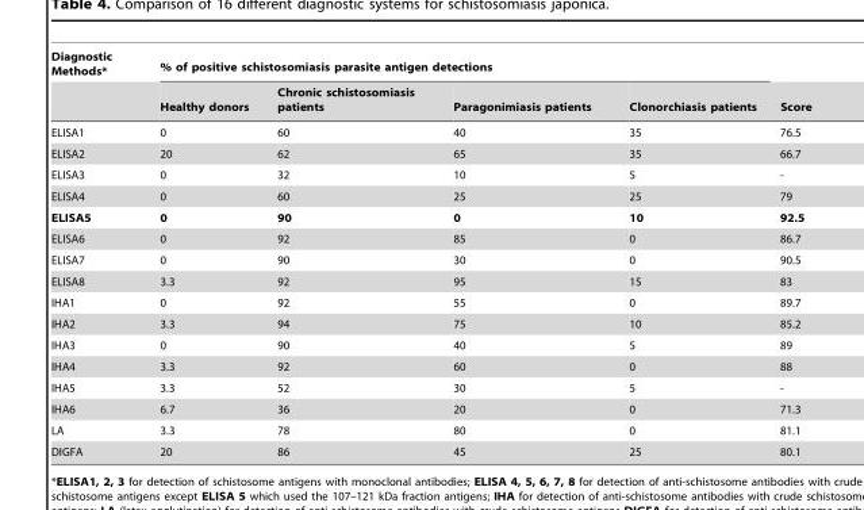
<table><thead><tr><td rowspan="2">Diagnostic Methods*</td><td colspan="4">% of positive schistosomiasis parasite antigen detections</td><td rowspan="2">Score</td></tr><tr><td>Healthy donors</td><td>Chronic schistosomiasis patients</td><td>Paragonimiasis patients</td><td>Clonorchiasis patients</td></tr></thead><tbody><tr><td>ELISA1</td><td>0</td><td>60</td><td>40</td><td>35</td><td>76.5</td></tr><tr><td>ELISA2</td><td>20</td><td>62</td><td>65</td><td>35</td><td>66.7</td></tr><tr><td>ELISA3</td><td>0</td><td>32</td><td>10</td><td>5</td><td>-</td></tr><tr><td>ELISA4</td><td>0</td><td>60</td><td>25</td><td>25</td><td>79</td></tr><tr><td>ELISA5</td><td>0</td><td>90</td><td>0</td><td>10</td><td>92.5</td></tr><tr><td>ELISA6</td><td>0</td><td>92</td><td>85</td><td>0</td><td>86.7</td></tr><tr><td>ELISA7</td><td>0</td><td>90</td><td>30</td><td>0</td><td>90.5</td></tr><tr><td>ELISA8</td><td>3.3</td><td>92</td><td>95</td><td>15</td><td>83</td></tr><tr><td>IHA1</td><td>0</td><td>92</td><td>55</td><td>0</td><td>89.7</td></tr><tr><td>IHA2</td><td>3.3</td><td>94</td><td>75</td><td>10</td><td>85.2</td></tr><tr><td>IHA3</td><td>0</td><td>90</td><td>40</td><td>5</td><td>89</td></tr><tr><td>IHA4</td><td>3.3</td><td>92</td><td>60</td><td>0</td><td>88</td></tr><tr><td>IHA5</td><td>3.3</td><td>52</td><td>30</td><td>5</td><td>-</td></tr><tr><td>IHA6</td><td>6.7</td><td>36</td><td>20</td><td>0</td><td>71.3</td></tr><tr><td>LA</td><td>3.3</td><td>78</td><td>80</td><td>0</td><td>81.1</td></tr><tr><td>DIGFA</td><td>20</td><td>86</td><td>45</td><td>25</td><td>80.1</td></tr></tbody></table>